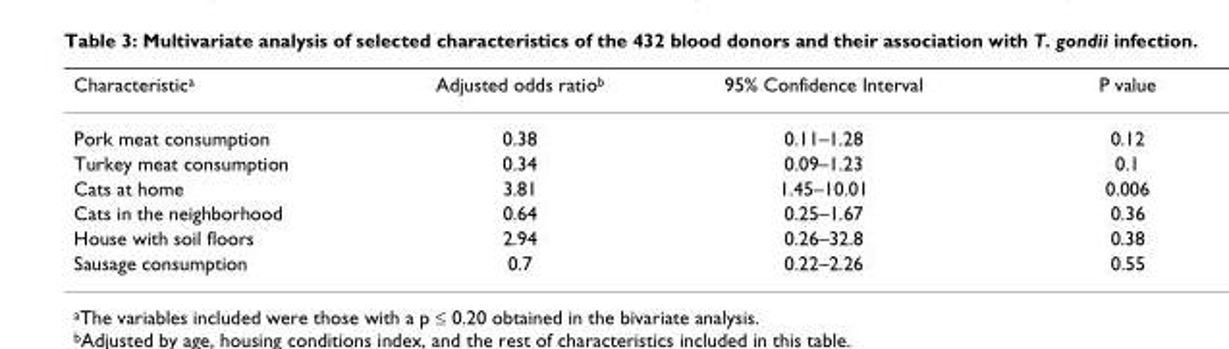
<table><thead><tr><td>Characteristic<sup>a</sup></td><td>Adjusted odds ratio<sup>b</sup></td><td>95% Confidence Interval</td><td>P value</td></tr></thead><tbody><tr><td>Pork meat consumption</td><td>0.38</td><td>0.11–1.28</td><td>0.12</td></tr><tr><td>Turkey meat consumption</td><td>0.34</td><td>0.09–1.23</td><td>0.1</td></tr><tr><td>Cats at home</td><td>3.81</td><td>1.45–10.01</td><td>0.006</td></tr><tr><td>Cats in the neighborhood</td><td>0.64</td><td>0.25–1.67</td><td>0.36</td></tr><tr><td>House with soil floors</td><td>2.94</td><td>0.26–32.8</td><td>0.38</td></tr><tr><td>Sausage consumption</td><td>0.7</td><td>0.22–2.26</td><td>0.55</td></tr></tbody></table>